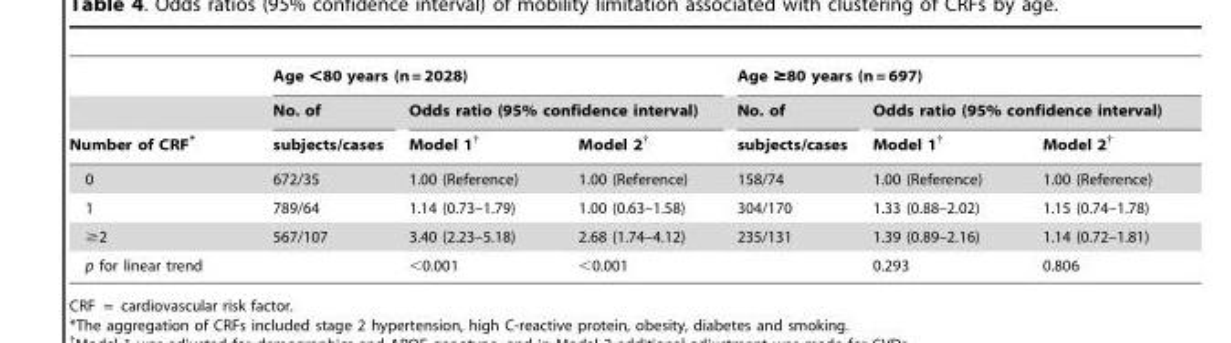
<table><thead><tr><td rowspan="3">Number of CRF*</td><td colspan="3">Age &lt;80 years (n = 2028)</td><td colspan="3">Age ≥80 years (n = 697)</td></tr><tr><td rowspan="2">No. of subjects/cases</td><td colspan="2">Odds ratio (95% confidence interval)</td><td rowspan="2">No. of subjects/cases</td><td colspan="2">Odds ratio (95% confidence interval)</td></tr><tr><td>Model 1†</td><td>Model 2†</td><td>Model 1†</td><td>Model 2†</td></tr></thead><tbody><tr><td>0</td><td>672/35</td><td>1.00 (Reference)</td><td>1.00 (Reference)</td><td>158/74</td><td>1.00 (Reference)</td><td>1.00 (Reference)</td></tr><tr><td>1</td><td>789/64</td><td>1.14 (0.73–1.79)</td><td>1.00 (0.63–1.58)</td><td>304/170</td><td>1.33 (0.88–2.02)</td><td>1.15 (0.74–1.78)</td></tr><tr><td>≥2</td><td>567/107</td><td>3.40 (2.23–5.18)</td><td>2.68 (1.74–4.12)</td><td>235/131</td><td>1.39 (0.89–2.16)</td><td>1.14 (0.72–1.81)</td></tr><tr><td>p for linear trend</td><td></td><td>&lt;0.001</td><td>&lt;0.001</td><td></td><td>0.293</td><td>0.806</td></tr></tbody></table>